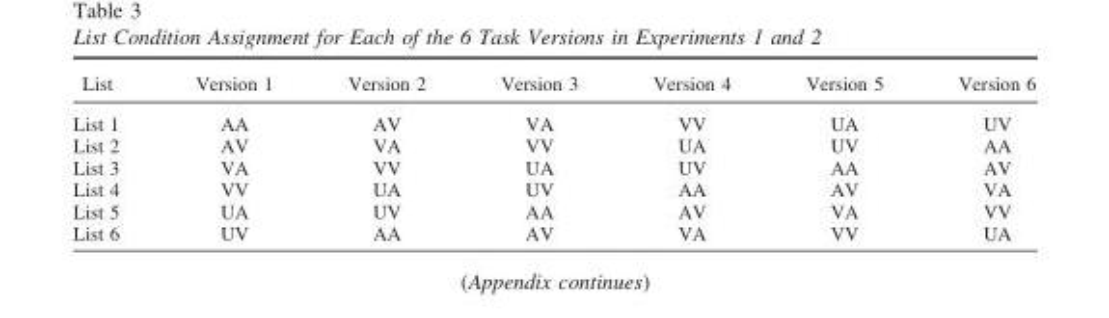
<table><thead><tr><td>List</td><td>Version 1</td><td>Version 2</td><td>Version 3</td><td>Version 4</td><td>Version 5</td><td>Version 6</td></tr></thead><tbody><tr><td>List 1</td><td>AA</td><td>AV</td><td>VA</td><td>VV</td><td>UA</td><td>UV</td></tr><tr><td>List 2</td><td>AV</td><td>VA</td><td>VV</td><td>UA</td><td>UV</td><td>AA</td></tr><tr><td>List 3</td><td>VA</td><td>VV</td><td>UA</td><td>UV</td><td>AA</td><td>AV</td></tr><tr><td>List 4</td><td>VV</td><td>UA</td><td>UV</td><td>AA</td><td>AV</td><td>VA</td></tr><tr><td>List 5</td><td>UA</td><td>UV</td><td>AA</td><td>AV</td><td>VA</td><td>VV</td></tr><tr><td>List 6</td><td>UV</td><td>AA</td><td>AV</td><td>VA</td><td>VV</td><td>UA</td></tr></tbody></table>